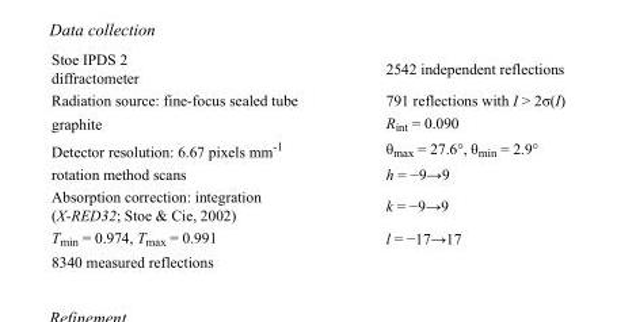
<table><tbody><tr><td>Stoe IPDS 2 diffractometer</td><td>2542 independent reflections</td></tr><tr><td>Radiation source: fine-focus sealed tube</td><td>791 reflections with I &gt; 2σ(I)</td></tr><tr><td>graphite</td><td>R<sub>int</sub> = 0.090</td></tr><tr><td>Detector resolution: 6.67 pixels mm<sup>-1</sup></td><td>θ<sub>max</sub> = 27.6°, θ<sub>min</sub> = 2.9°</td></tr><tr><td>rotation method scans</td><td>h = −9→9</td></tr><tr><td>Absorption correction: integration (X-RED32; Stoe &amp; Cie, 2002)</td><td>k = −9→9</td></tr><tr><td>T<sub>min</sub> = 0.974, T<sub>max</sub> = 0.991</td><td>l = −17→17</td></tr><tr><td>8340 measured reflections</td><td></td></tr></tbody></table>